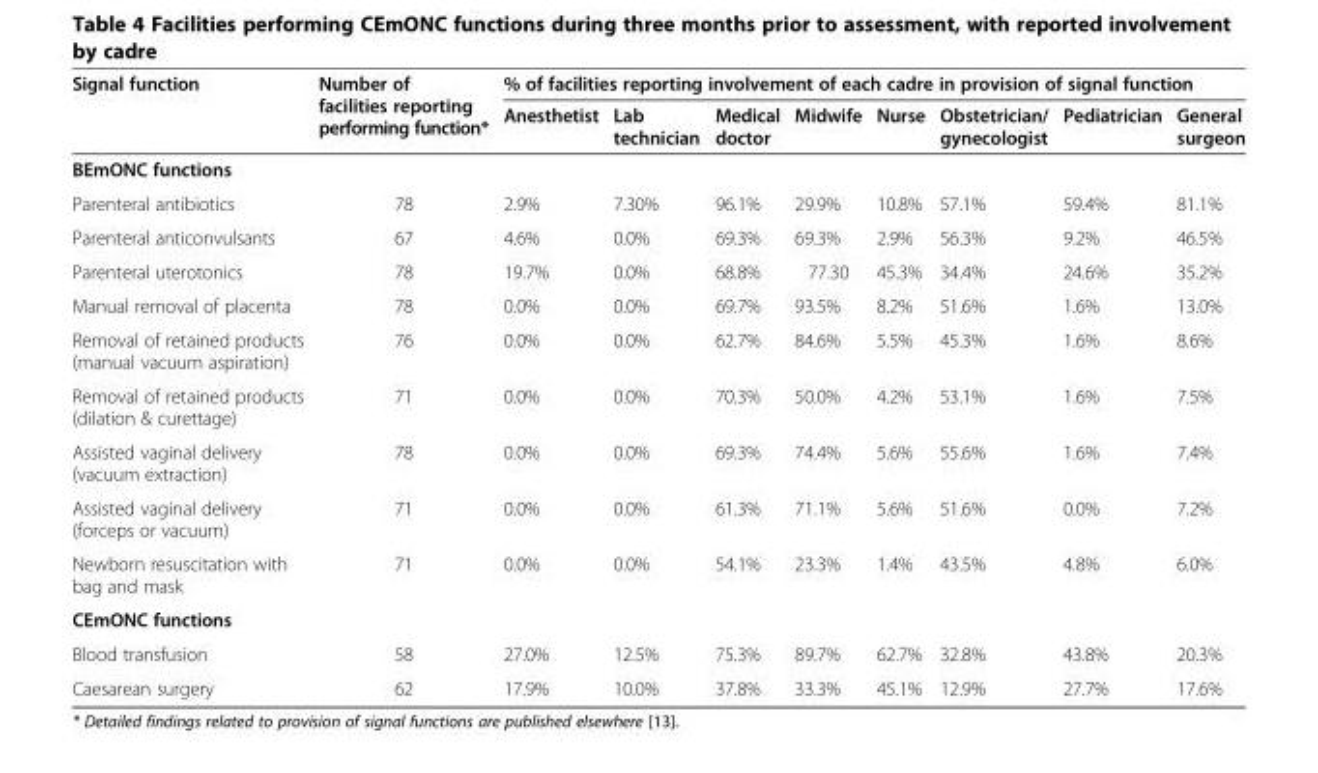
<table><thead><tr><td rowspan="2">Signal function</td><td rowspan="2">Number of facilities reporting performing function*</td><td colspan="8">% of facilities reporting involvement of each cadre in provision of signal function</td></tr><tr><td>Anesthetist</td><td>Lab technician</td><td>Medical doctor</td><td>Midwife</td><td>Nurse</td><td>Obstetrician/ gynecologist</td><td>Pediatrician</td><td>General surgeon</td></tr></thead><tbody><tr><td colspan="10">BEmONC functions</td></tr><tr><td>Parenteral antibiotics</td><td>78</td><td>2.9%</td><td>7.30%</td><td>96.1%</td><td>29.9%</td><td>10.8%</td><td>57.1%</td><td>59.4%</td><td>81.1%</td></tr><tr><td>Parenteral anticonvulsants</td><td>67</td><td>4.6%</td><td>0.0%</td><td>69.3%</td><td>69.3%</td><td>2.9%</td><td>56.3%</td><td>9.2%</td><td>46.5%</td></tr><tr><td>Parenteral uterotonics</td><td>78</td><td>19.7%</td><td>0.0%</td><td>68.8%</td><td>77.30</td><td>45.3%</td><td>34.4%</td><td>24.6%</td><td>35.2%</td></tr><tr><td>Manual removal of placenta</td><td>78</td><td>0.0%</td><td>0.0%</td><td>69.7%</td><td>93.5%</td><td>8.2%</td><td>51.6%</td><td>1.6%</td><td>13.0%</td></tr><tr><td>Removal of retained products (manual vacuum aspiration)</td><td>76</td><td>0.0%</td><td>0.0%</td><td>62.7%</td><td>84.6%</td><td>5.5%</td><td>45.3%</td><td>1.6%</td><td>8.6%</td></tr><tr><td>Removal of retained products (dilation &amp; curettage)</td><td>71</td><td>0.0%</td><td>0.0%</td><td>70.3%</td><td>50.0%</td><td>4.2%</td><td>53.1%</td><td>1.6%</td><td>7.5%</td></tr><tr><td>Assisted vaginal delivery (vacuum extraction)</td><td>78</td><td>0.0%</td><td>0.0%</td><td>69.3%</td><td>74.4%</td><td>5.6%</td><td>55.6%</td><td>1.6%</td><td>7.4%</td></tr><tr><td>Assisted vaginal delivery (forceps or vacuum)</td><td>71</td><td>0.0%</td><td>0.0%</td><td>61.3%</td><td>71.1%</td><td>5.6%</td><td>51.6%</td><td>0.0%</td><td>7.2%</td></tr><tr><td>Newborn resuscitation with bag and mask</td><td>71</td><td>0.0%</td><td>0.0%</td><td>54.1%</td><td>23.3%</td><td>1.4%</td><td>43.5%</td><td>4.8%</td><td>6.0%</td></tr><tr><td colspan="10">CEmONC functions</td></tr><tr><td>Blood transfusion</td><td>58</td><td>27.0%</td><td>12.5%</td><td>75.3%</td><td>89.7%</td><td>62.7%</td><td>32.8%</td><td>43.8%</td><td>20.3%</td></tr><tr><td>Caesarean surgery</td><td>62</td><td>17.9%</td><td>10.0%</td><td>37.8%</td><td>33.3%</td><td>45.1%</td><td>12.9%</td><td>27.7%</td><td>17.6%</td></tr></tbody></table>